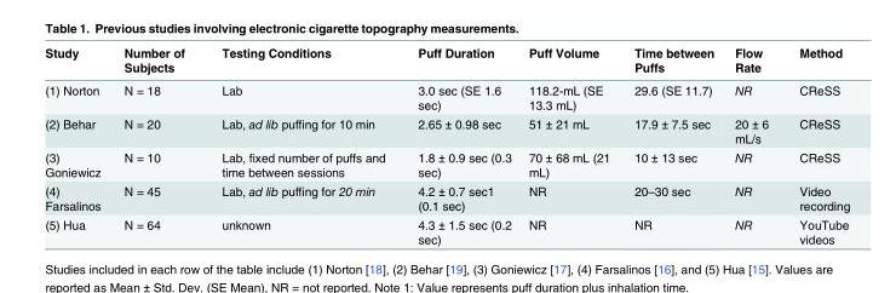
<table><thead><tr><td>Study</td><td>Number of Subjects</td><td>Testing Conditions</td><td>Puff Duration</td><td>Puff Volume</td><td>Time between Puffs</td><td>Flow Rate</td><td>Method</td></tr></thead><tbody><tr><td>(1) Norton</td><td>N = 18</td><td>Lab</td><td>3.0 sec (SE 1.6 sec)</td><td>118.2-mL (SE 13.3 mL)</td><td>29.6 (SE 11.7)</td><td>NR</td><td>CReSS</td></tr><tr><td>(2) Behar</td><td>N = 20</td><td>Lab, ad lib puffing for 10 min</td><td>2.65 ± 0.98 sec</td><td>51 ± 21 mL</td><td>17.9 ± 7.5 sec</td><td>20 ± 6 mL/s</td><td>CReSS</td></tr><tr><td>(3) Goniewicz</td><td>N = 10</td><td>Lab, fixed number of puffs and time between sessions</td><td>1.8 ± 0.9 sec (0.3 sec)</td><td>70 ± 68 mL (21 mL)</td><td>10 ± 13 sec</td><td>NR</td><td>CReSS</td></tr><tr><td>(4) Farsalinos</td><td>N = 45</td><td>Lab, ad lib puffing for 20 min</td><td>4.2 ± 0.7 sec1 (0.1 sec)</td><td>NR</td><td>20–30 sec</td><td>NR</td><td>Video recording</td></tr><tr><td>(5) Hua</td><td>N = 64</td><td>unknown</td><td>4.3 ± 1.5 sec (0.2 sec)</td><td>NR</td><td>NR</td><td>NR</td><td>YouTube videos</td></tr></tbody></table>